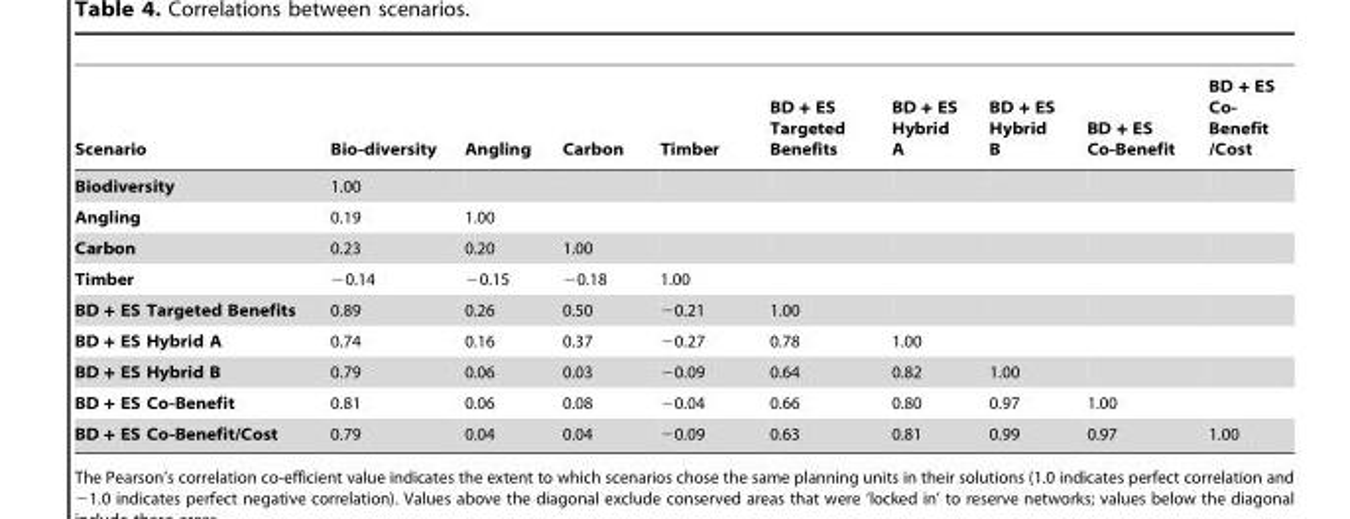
<table><thead><tr><td>Scenario</td><td>Bio-diversity</td><td>Angling</td><td>Carbon</td><td>Timber</td><td>BD + ES Targeted Benefits</td><td>BD + ES Hybrid A</td><td>BD + ES Hybrid B</td><td>BD + ES Co-Benefit</td><td>BD + ES Co- Benefit /Cost</td></tr></thead><tbody><tr><td>Biodiversity</td><td>1.00</td><td></td><td></td><td></td><td></td><td></td><td></td><td></td><td></td></tr><tr><td>Angling</td><td>0.19</td><td>1.00</td><td></td><td></td><td></td><td></td><td></td><td></td><td></td></tr><tr><td>Carbon</td><td>0.23</td><td>0.20</td><td>1.00</td><td></td><td></td><td></td><td></td><td></td><td></td></tr><tr><td>Timber</td><td>−0.14</td><td>−0.15</td><td>−0.18</td><td>1.00</td><td></td><td></td><td></td><td></td><td></td></tr><tr><td>BD + ES Targeted Benefits</td><td>0.89</td><td>0.26</td><td>0.50</td><td>−0.21</td><td>1.00</td><td></td><td></td><td></td><td></td></tr><tr><td>BD + ES Hybrid A</td><td>0.74</td><td>0.16</td><td>0.37</td><td>−0.27</td><td>0.78</td><td>1.00</td><td></td><td></td><td></td></tr><tr><td>BD + ES Hybrid B</td><td>0.79</td><td>0.06</td><td>0.03</td><td>−0.09</td><td>0.64</td><td>0.82</td><td>1.00</td><td></td><td></td></tr><tr><td>BD + ES Co-Benefit</td><td>0.81</td><td>0.06</td><td>0.08</td><td>−0.04</td><td>0.66</td><td>0.80</td><td>0.97</td><td>1.00</td><td></td></tr><tr><td>BD + ES Co-Benefit/Cost</td><td>0.79</td><td>0.04</td><td>0.04</td><td>−0.09</td><td>0.63</td><td>0.81</td><td>0.99</td><td>0.97</td><td>1.00</td></tr></tbody></table>